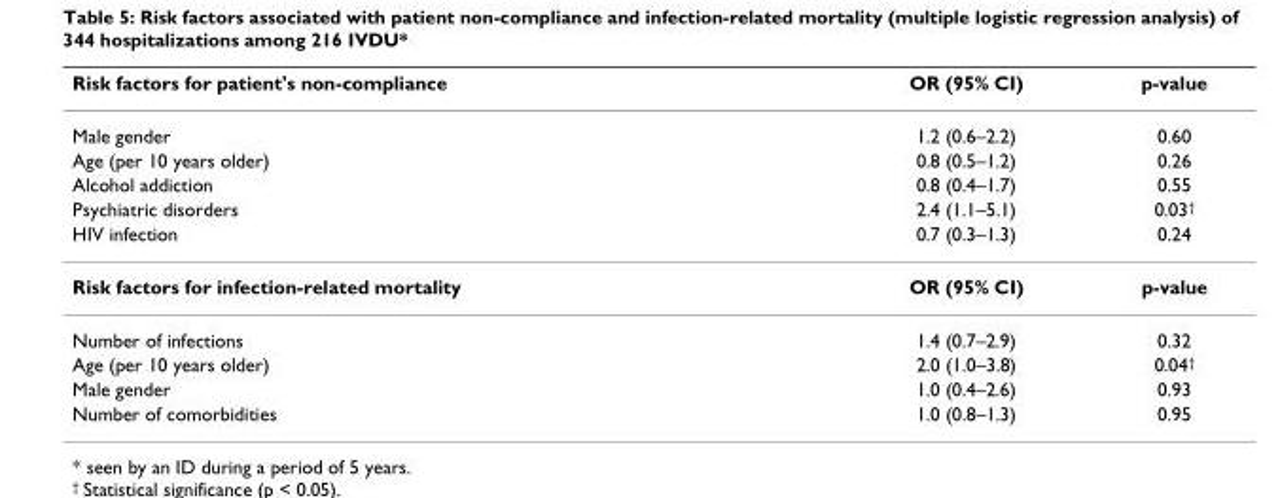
<table><thead><tr><td>Risk factors for patient&#x27;s non-compliance</td><td>OR (95% CI)</td><td>p-value</td></tr></thead><tbody><tr><td>Male gender</td><td>1.2 (0.6–2.2)</td><td>0.60</td></tr><tr><td>Age (per 10 years older)</td><td>0.8 (0.5–1.2)</td><td>0.26</td></tr><tr><td>Alcohol addiction</td><td>0.8 (0.4–1.7)</td><td>0.55</td></tr><tr><td>Psychiatric disorders</td><td>2.4 (1.1–5.1)</td><td>0.03<sup>†</sup></td></tr><tr><td>HIV infection</td><td>0.7 (0.3–1.3)</td><td>0.24</td></tr><tr><td>Risk factors for infection-related mortality</td><td>OR (95% CI)</td><td>p-value</td></tr><tr><td>Number of infections</td><td>1.4 (0.7–2.9)</td><td>0.32</td></tr><tr><td>Age (per 10 years older)</td><td>2.0 (1.0–3.8)</td><td>0.04<sup>†</sup></td></tr><tr><td>Male gender</td><td>1.0 (0.4–2.6)</td><td>0.93</td></tr><tr><td>Number of comorbidities</td><td>1.0 (0.8–1.3)</td><td>0.95</td></tr></tbody></table>